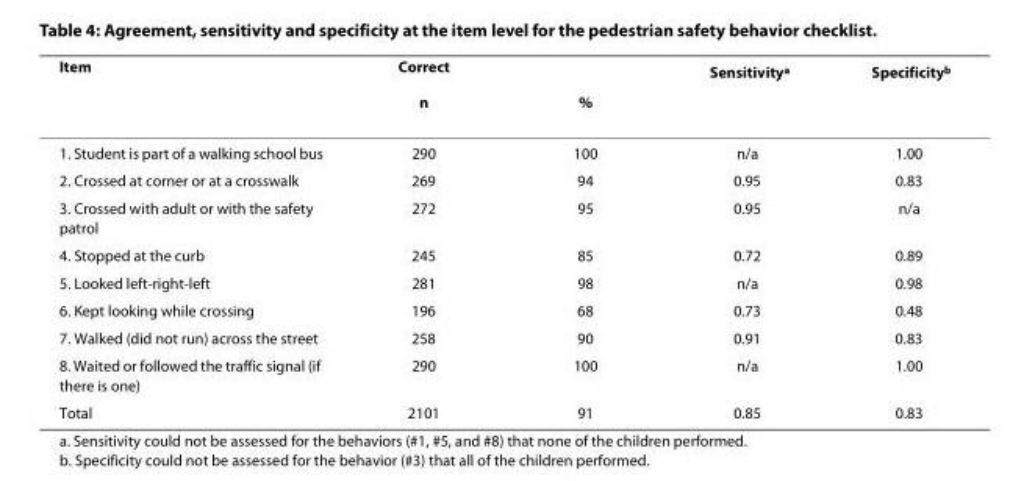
<table><thead><tr><td rowspan="2">Item</td><td rowspan="2">Correct n</td><td rowspan="2">%</td><td rowspan="2">Sensitivity<sup>a</sup></td><td rowspan="2">Specificity<sup>b</sup></td></tr><tr></tr></thead><tbody><tr><td>1. Student is part of a walking school bus</td><td>290</td><td>100</td><td>n/a</td><td>1.00</td></tr><tr><td>2. Crossed at corner or at a crosswalk</td><td>269</td><td>94</td><td>0.95</td><td>0.83</td></tr><tr><td>3. Crossed with adult or with the safety patrol</td><td>272</td><td>95</td><td>0.95</td><td>n/a</td></tr><tr><td>4. Stopped at the curb</td><td>245</td><td>85</td><td>0.72</td><td>0.89</td></tr><tr><td>5. Looked left-right-left</td><td>281</td><td>98</td><td>n/a</td><td>0.98</td></tr><tr><td>6. Kept looking while crossing</td><td>196</td><td>68</td><td>0.73</td><td>0.48</td></tr><tr><td>7. Walked (did not run) across the street</td><td>258</td><td>90</td><td>0.91</td><td>0.83</td></tr><tr><td>8. Waited or followed the traffic signal (if there is one)</td><td>290</td><td>100</td><td>n/a</td><td>1.00</td></tr><tr><td>Total</td><td>2101</td><td>91</td><td>0.85</td><td>0.83</td></tr></tbody></table>